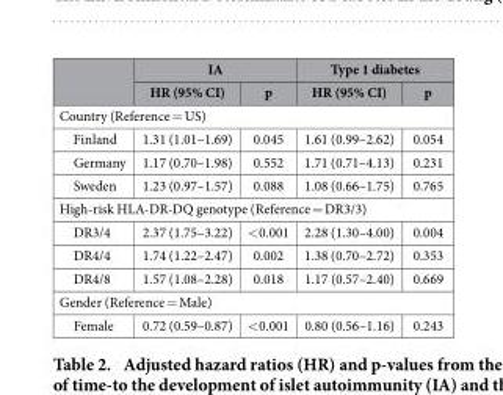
<table><thead><tr><td rowspan="2"></td><td colspan="2">IA</td><td colspan="2">Type 1 diabetes</td></tr><tr><td>HR (95% CI)</td><td>p</td><td>HR (95% CI)</td><td>p</td></tr></thead><tbody><tr><td colspan="5">Country (Reference = US)</td></tr><tr><td>Finland</td><td>1.31 (1.01–1.69)</td><td>0.045</td><td>1.61 (0.99–2.62)</td><td>0.054</td></tr><tr><td>Germany</td><td>1.17 (0.70–1.98)</td><td>0.552</td><td>1.71 (0.71–4.13)</td><td>0.231</td></tr><tr><td>Sweden</td><td>1.23 (0.97–1.57)</td><td>0.088</td><td>1.08 (0.66–1.75)</td><td>0.765</td></tr><tr><td colspan="5">High-risk HLA-DR-DQ genotype (Reference = DR3/3)</td></tr><tr><td>DR3/4</td><td>2.37 (1.75–3.22)</td><td>&lt; 0.001</td><td>2.28 (1.30–4.00)</td><td>0.004</td></tr><tr><td>DR4/4</td><td>1.74 (1.22–2.47)</td><td>0.002</td><td>1.38 (0.70–2.72)</td><td>0.353</td></tr><tr><td>DR4/8</td><td>1.57 (1.08–2.28)</td><td>0.018</td><td>1.17 (0.57–2.40)</td><td>0.669</td></tr><tr><td colspan="5">Gender (Reference = Male)</td></tr><tr><td>Female</td><td>0.72 (0.59–0.87)</td><td>&lt; 0.001</td><td>0.80 (0.56–1.16)</td><td>0.243</td></tr></tbody></table>